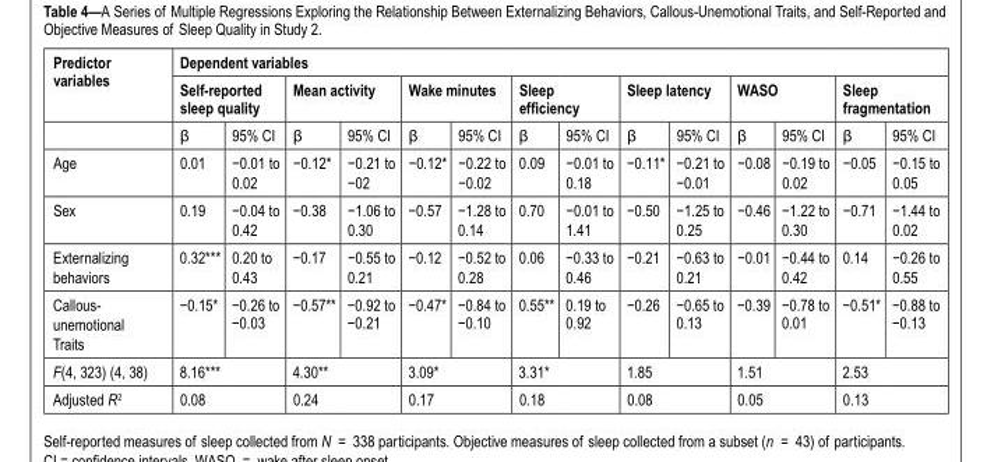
<table><thead><tr><td rowspan="3">Predictor variables</td><td colspan="14">Dependent variables</td></tr><tr><td colspan="2">Self-reported sleep quality</td><td colspan="2">Mean activity</td><td colspan="2">Wake minutes</td><td colspan="2">Sleep efficiency</td><td colspan="2">Sleep latency</td><td colspan="2">WASO</td><td colspan="2">Sleep fragmentation</td></tr><tr><td>β</td><td>95% CI</td><td>β</td><td>95% CI</td><td>β</td><td>95% CI</td><td>β</td><td>95% CI</td><td>β</td><td>95% CI</td><td>β</td><td>95% CI</td><td>β</td><td>95% CI</td></tr></thead><tbody><tr><td>Age</td><td>0.01</td><td>−0.01 to 0.02</td><td>−0.12*</td><td>−0.21 to −02</td><td>−0.12*</td><td>−0.22 to −0.02</td><td>0.09</td><td>−0.01 to 0.18</td><td>−0.11*</td><td>−0.21 to −0.01</td><td>−0.08</td><td>−0.19 to 0.02</td><td>−0.05</td><td>−0.15 to 0.05</td></tr><tr><td>Sex</td><td>0.19</td><td>−0.04 to 0.42</td><td>−0.38</td><td>−1.06 to 0.30</td><td>−0.57</td><td>−1.28 to 0.14</td><td>0.70</td><td>−0.01 to 1.41</td><td>−0.50</td><td>−1.25 to 0.25</td><td>−0.46</td><td>−1.22 to 0.30</td><td>−0.71</td><td>−1.44 to 0.02</td></tr><tr><td>Externalizing behaviors</td><td>0.32***</td><td>0.20 to 0.43</td><td>−0.17</td><td>−0.55 to 0.21</td><td>−0.12</td><td>−0.52 to 0.28</td><td>0.06</td><td>−0.33 to 0.46</td><td>−0.21</td><td>−0.63 to 0.21</td><td>−0.01</td><td>−0.44 to 0.42</td><td>0.14</td><td>−0.26 to 0.55</td></tr><tr><td>Callous- unemotional Traits</td><td>−0.15*</td><td>−0.26 to −0.03</td><td>−0.57**</td><td>−0.92 to −0.21</td><td>−0.47*</td><td>−0.84 to −0.10</td><td>0.55**</td><td>0.19 to 0.92</td><td>−0.26</td><td>−0.65 to 0.13</td><td>−0.39</td><td>−0.78 to 0.01</td><td>−0.51*</td><td>−0.88 to −0.13</td></tr><tr><td>F(4, 323) (4, 38)</td><td colspan="2">8.16***</td><td colspan="2">4.30**</td><td colspan="2">3.09*</td><td colspan="2">3.31*</td><td colspan="2">1.85</td><td colspan="2">1.51</td><td colspan="2">2.53</td></tr><tr><td>Adjusted R<sup>2</sup></td><td colspan="2">0.08</td><td colspan="2">0.24</td><td colspan="2">0.17</td><td colspan="2">0.18</td><td colspan="2">0.08</td><td colspan="2">0.05</td><td colspan="2">0.13</td></tr></tbody></table>